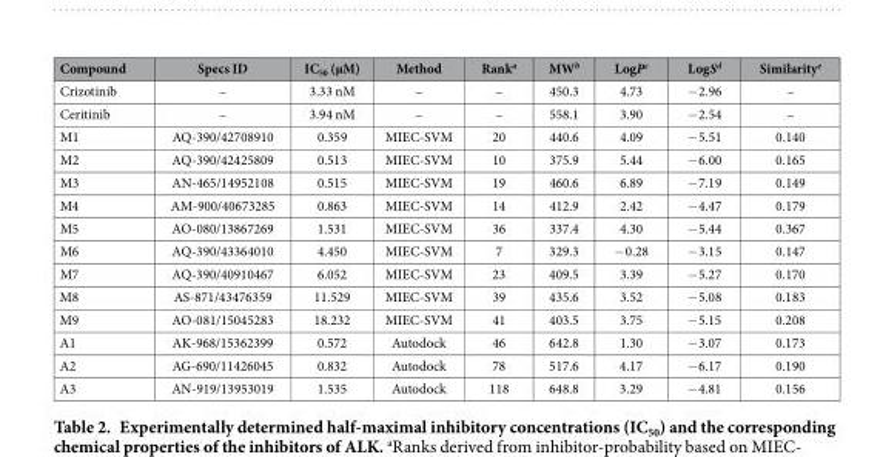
<table><thead><tr><td>Compound</td><td>Specs ID</td><td>IC<sub>50</sub> (μM)</td><td>Method</td><td>Rank<sup>a</sup></td><td>MW<sup>b</sup></td><td>LogP<sup>c</sup></td><td>LogS<sup>d</sup></td><td>Similarity<sup>e</sup></td></tr></thead><tbody><tr><td>Crizotinib</td><td>–</td><td>3.33 nM</td><td>–</td><td>–</td><td>450.3</td><td>4.73</td><td>− 2.96</td><td>–</td></tr><tr><td>Ceritinib</td><td>–</td><td>3.94 nM</td><td>–</td><td>–</td><td>558.1</td><td>3.90</td><td>− 2.54</td><td>–</td></tr><tr><td>M1</td><td>AQ-390/42708910</td><td>0.359</td><td>MIEC-SVM</td><td>20</td><td>440.6</td><td>4.09</td><td>− 5.51</td><td>0.140</td></tr><tr><td>M2</td><td>AQ-390/42425809</td><td>0.513</td><td>MIEC-SVM</td><td>10</td><td>375.9</td><td>5.44</td><td>− 6.00</td><td>0.165</td></tr><tr><td>M3</td><td>AN-465/14952108</td><td>0.515</td><td>MIEC-SVM</td><td>19</td><td>460.6</td><td>6.89</td><td>− 7.19</td><td>0.149</td></tr><tr><td>M4</td><td>AM-900/40673285</td><td>0.863</td><td>MIEC-SVM</td><td>14</td><td>412.9</td><td>2.42</td><td>− 4.47</td><td>0.179</td></tr><tr><td>M5</td><td>AO-080/13867269</td><td>1.531</td><td>MIEC-SVM</td><td>36</td><td>337.4</td><td>4.30</td><td>− 5.44</td><td>0.367</td></tr><tr><td>M6</td><td>AQ-390/43364010</td><td>4.450</td><td>MIEC-SVM</td><td>7</td><td>329.3</td><td>− 0.28</td><td>− 3.15</td><td>0.147</td></tr><tr><td>M7</td><td>AQ-390/40910467</td><td>6.052</td><td>MIEC-SVM</td><td>23</td><td>409.5</td><td>3.39</td><td>− 5.27</td><td>0.170</td></tr><tr><td>M8</td><td>AS-871/43476359</td><td>11.529</td><td>MIEC-SVM</td><td>39</td><td>435.6</td><td>3.52</td><td>− 5.08</td><td>0.183</td></tr><tr><td>M9</td><td>AO-081/15045283</td><td>18.232</td><td>MIEC-SVM</td><td>41</td><td>403.5</td><td>3.75</td><td>− 5.15</td><td>0.208</td></tr><tr><td>A1</td><td>AK-968/15362399</td><td>0.572</td><td>Autodock</td><td>46</td><td>642.8</td><td>1.30</td><td>− 3.07</td><td>0.173</td></tr><tr><td>A2</td><td>AG-690/11426045</td><td>0.832</td><td>Autodock</td><td>78</td><td>517.6</td><td>4.17</td><td>− 6.17</td><td>0.190</td></tr><tr><td>A3</td><td>AN-919/13953019</td><td>1.535</td><td>Autodock</td><td>118</td><td>648.8</td><td>3.29</td><td>− 4.81</td><td>0.156</td></tr></tbody></table>